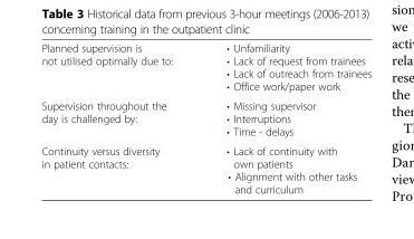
<table><tbody><tr><td>Planned supervision is not utilised optimally due to:</td><td>• Unfamiliarity • Lack of request from trainees • Lack of outreach from trainees • Office work/paper work</td></tr><tr><td>Supervision throughout the day is challenged by:</td><td>• Missing supervisor • Interruptions • Time - delays</td></tr><tr><td>Continuity versus diversity in patient contacts:</td><td>• Lack of continuity with own patients • Alignment with other tasks and curriculum</td></tr></tbody></table>